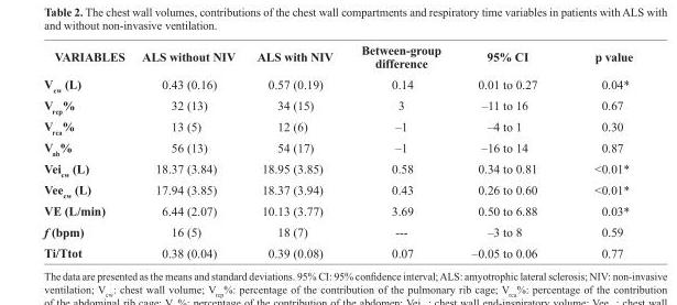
<table><thead><tr><td>VARIABLES</td><td>ALS without NIV</td><td>ALS with NIV</td><td>Between-group difference</td><td>95% CI</td><td>p value</td></tr></thead><tbody><tr><td>V<sub>cw</sub> (L)</td><td>0.43 (0.16)</td><td>0.57 (0.19)</td><td>0.14</td><td>0.01 to 0.27</td><td>0.04*</td></tr><tr><td>V<sub>rcp</sub>%</td><td>32 (13)</td><td>34 (15)</td><td>3</td><td>–11 to 16</td><td>0.67</td></tr><tr><td>V<sub>rca</sub>%</td><td>13 (5)</td><td>12 (6)</td><td>–1</td><td>–4 to 1</td><td>0.30</td></tr><tr><td>V<sub>ab</sub>%</td><td>56 (13)</td><td>54 (17)</td><td>–1</td><td>–16 to 14</td><td>0.87</td></tr><tr><td>Vei<sub>cw</sub> (L)</td><td>18.37 (3.84)</td><td>18.95 (3.85)</td><td>0.58</td><td>0.34 to 0.81</td><td>&lt;0.01*</td></tr><tr><td>Vee<sub>cw</sub> (L)</td><td>17.94 (3.85)</td><td>18.37 (3.94)</td><td>0.43</td><td>0.26 to 0.60</td><td>&lt;0.01*</td></tr><tr><td>VE (L/min)</td><td>6.44 (2.07)</td><td>10.13 (3.77)</td><td>3.69</td><td>0.50 to 6.88</td><td>0.03*</td></tr><tr><td>f (bpm)</td><td>16 (5)</td><td>18 (7)</td><td>---</td><td>–3 to 8</td><td>0.59</td></tr><tr><td>Ti/Ttot</td><td>0.38 (0.04)</td><td>0.39 (0.08)</td><td>0.07</td><td>–0.05 to 0.06</td><td>0.77</td></tr></tbody></table>